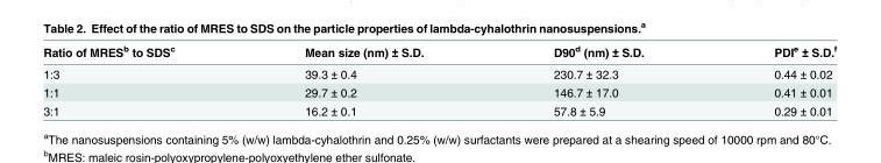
<table><thead><tr><td>Ratio of MRES<sup>b</sup> to SDS<sup>c</sup></td><td>Mean size (nm) ± S.D.</td><td>D90<sup>d</sup> (nm) ± S.D.</td><td>PDI<sup>e</sup> ± S.D.<sup>f</sup></td></tr></thead><tbody><tr><td>1:3</td><td>39.3 ± 0.4</td><td>230.7 ± 32.3</td><td>0.44 ± 0.02</td></tr><tr><td>1:1</td><td>29.7 ± 0.2</td><td>146.7 ± 17.0</td><td>0.41 ± 0.01</td></tr><tr><td>3:1</td><td>16.2 ± 0.1</td><td>57.8 ± 5.9</td><td>0.29 ± 0.01</td></tr></tbody></table>